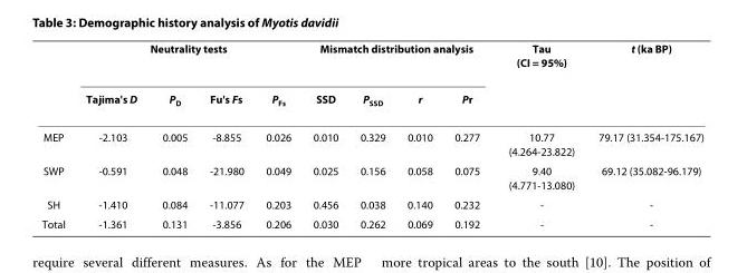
<table><thead><tr><td rowspan="2"></td><td colspan="4">Neutrality tests</td><td colspan="4">Mismatch distribution analysis</td><td rowspan="2">Tau (CI = 95%)</td><td rowspan="2">t (ka BP)</td></tr><tr><td>Tajima&#x27;s D</td><td>P<sub>D</sub></td><td>Fu&#x27;s Fs</td><td>P<sub>Fs</sub></td><td>SSD</td><td>P<sub>SSD</sub></td><td>r</td><td>Pr</td></tr></thead><tbody><tr><td>MEP</td><td>-2.103</td><td>0.005</td><td>-8.855</td><td>0.026</td><td>0.010</td><td>0.329</td><td>0.010</td><td>0.277</td><td>10.77 (4.264-23.822)</td><td>79.17 (31.354-175.167)</td></tr><tr><td>SWP</td><td>-0.591</td><td>0.048</td><td>-21.980</td><td>0.049</td><td>0.025</td><td>0.156</td><td>0.058</td><td>0.075</td><td>9.40 (4.771-13.080)</td><td>69.12 (35.082-96.179)</td></tr><tr><td>SH</td><td>-1.410</td><td>0.084</td><td>-11.077</td><td>0.203</td><td>0.456</td><td>0.038</td><td>0.140</td><td>0.232</td><td>-</td><td>-</td></tr><tr><td>Total</td><td>-1.361</td><td>0.131</td><td>-3.856</td><td>0.206</td><td>0.030</td><td>0.262</td><td>0.069</td><td>0.192</td><td>-</td><td>-</td></tr></tbody></table>